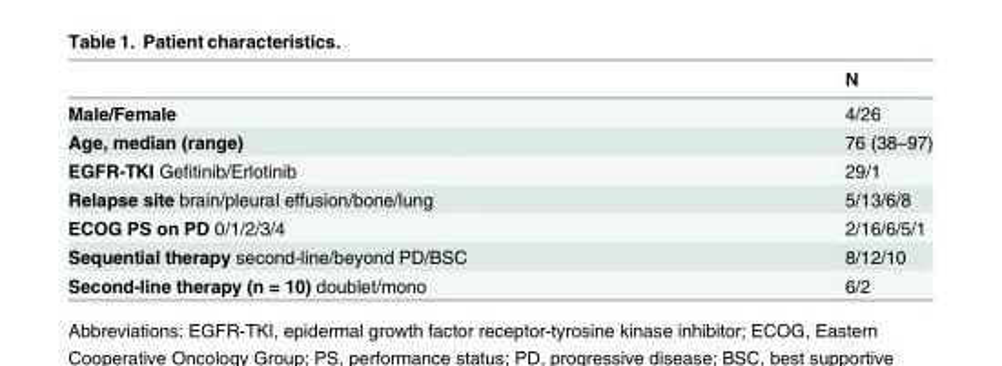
<table><thead><tr><td></td><td>N</td></tr></thead><tbody><tr><td>Male/Female</td><td>4/26</td></tr><tr><td>Age, median (range)</td><td>76 (38–97)</td></tr><tr><td>EGFR-TKI Gefitinib/Erlotinib</td><td>29/1</td></tr><tr><td>Relapse site brain/pleural effusion/bone/lung</td><td>5/13/6/8</td></tr><tr><td>ECOG PS on PD 0/1/2/3/4</td><td>2/16/6/5/1</td></tr><tr><td>Sequential therapy second-line/beyond PD/BSC</td><td>8/12/10</td></tr><tr><td>Second-line therapy (n = 10) doublet/mono</td><td>6/2</td></tr></tbody></table>